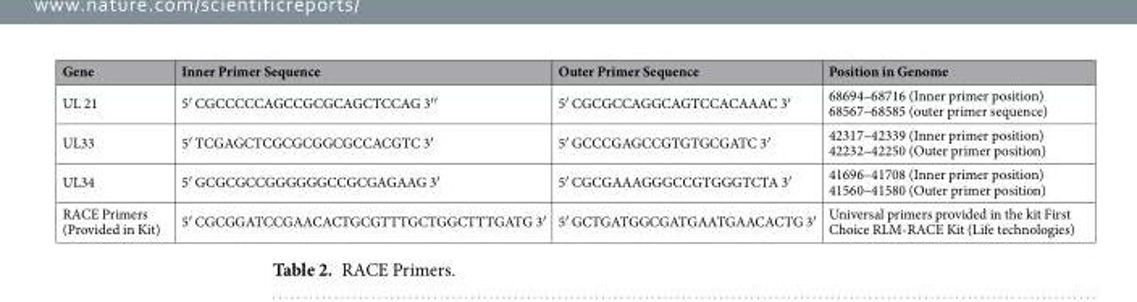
<table><thead><tr><td>Gene</td><td>Inner Primer Sequence</td><td>Outer Primer Sequence</td><td>Position in Genome</td></tr></thead><tbody><tr><td>UL 21</td><td>5′ CGCCCCCAGCCGCGCAGCTCCAG 3′′</td><td>5′ CGCGCCAGGCAGTCCACAAAC 3′</td><td>68694–68716 (Inner primer position) 68567–68585 (outer primer sequence)</td></tr><tr><td>UL33</td><td>5′ TCGAGCTCGCGCGGCGCCACGTC 3′</td><td>5′ GCCCGAGCCGTGTGCGATC 3′</td><td>42317–42339 (Inner primer position) 42232–42250 (Outer primer position)</td></tr><tr><td>UL34</td><td>5′ GCGCGCCGGGGGGCCGCGAGAAG 3′</td><td>5′ CGCGAAAGGGCCGTGGGTCTA 3′</td><td>41696–41708 (Inner primer position) 41560–41580 (Outer primer position)</td></tr><tr><td>RACE Primers (Provided in Kit)</td><td>5′ CGCGGATCCGAACACTGCGTTTGCTGGCTTTGATG 3′</td><td>5′ GCTGATGGCGATGAATGAACACTG 3′</td><td>Universal primers provided in the kit First Choice RLM-RACE Kit (Life technologies)</td></tr></tbody></table>